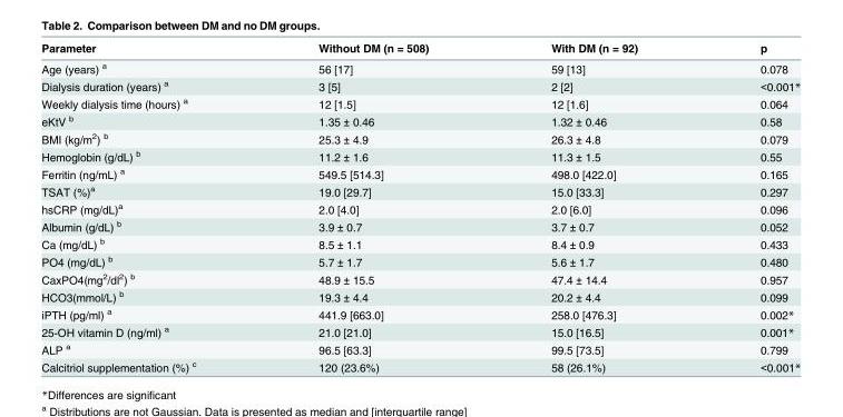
<table><thead><tr><td>Parameter</td><td>Without DM (n = 508)</td><td>With DM (n = 92)</td><td>p</td></tr></thead><tbody><tr><td>Age (years) <sup>a</sup></td><td>56 [17]</td><td>59 [13]</td><td>0.078</td></tr><tr><td>Dialysis duration (years) <sup>a</sup></td><td>3 [5]</td><td>2 [2]</td><td>&lt;0.001*</td></tr><tr><td>Weekly dialysis time (hours) <sup>a</sup></td><td>12 [1.5]</td><td>12 [1.6]</td><td>0.064</td></tr><tr><td>eKtV <sup>b</sup></td><td>1.35 ± 0.46</td><td>1.32 ± 0.46</td><td>0.58</td></tr><tr><td>BMI (kg/m<sup>2</sup>) <sup>b</sup></td><td>25.3 ± 4.9</td><td>26.3 ± 4.8</td><td>0.079</td></tr><tr><td>Hemoglobin (g/dL) <sup>b</sup></td><td>11.2 ± 1.6</td><td>11.3 ± 1.5</td><td>0.55</td></tr><tr><td>Ferritin (ng/mL) <sup>a</sup></td><td>549.5 [514.3]</td><td>498.0 [422.0]</td><td>0.165</td></tr><tr><td>TSAT (%)<sup>a</sup></td><td>19.0 [29.7]</td><td>15.0 [33.3]</td><td>0.297</td></tr><tr><td>hsCRP (mg/dL)<sup>a</sup></td><td>2.0 [4.0]</td><td>2.0 [6.0]</td><td>0.096</td></tr><tr><td>Albumin (g/dL) <sup>b</sup></td><td>3.9 ± 0.7</td><td>3.7 ± 0.7</td><td>0.052</td></tr><tr><td>Ca (mg/dL) <sup>b</sup></td><td>8.5 ± 1.1</td><td>8.4 ± 0.9</td><td>0.433</td></tr><tr><td>PO4 (mg/dL) <sup>b</sup></td><td>5.7 ± 1.7</td><td>5.6 ± 1.7</td><td>0.480</td></tr><tr><td>CaxPO4(mg<sup>2</sup>/dl<sup>2</sup>) <sup>b</sup></td><td>48.9 ± 15.5</td><td>47.4 ± 14.4</td><td>0.957</td></tr><tr><td>HCO3(mmol/L) <sup>b</sup></td><td>19.3 ± 4.4</td><td>20.2 ± 4.4</td><td>0.099</td></tr><tr><td>iPTH (pg/ml) <sup>a</sup></td><td>441.9 [663.0]</td><td>258.0 [476.3]</td><td>0.002*</td></tr><tr><td>25-OH vitamin D (ng/ml) <sup>a</sup></td><td>21.0 [21.0]</td><td>15.0 [16.5]</td><td>0.001*</td></tr><tr><td>ALP <sup>a</sup></td><td>96.5 [63.3]</td><td>99.5 [73.5]</td><td>0.799</td></tr><tr><td>Calcitriol supplementation (%) <sup>c</sup></td><td>120 (23.6%)</td><td>58 (26.1%)</td><td>&lt;0.001*</td></tr></tbody></table>